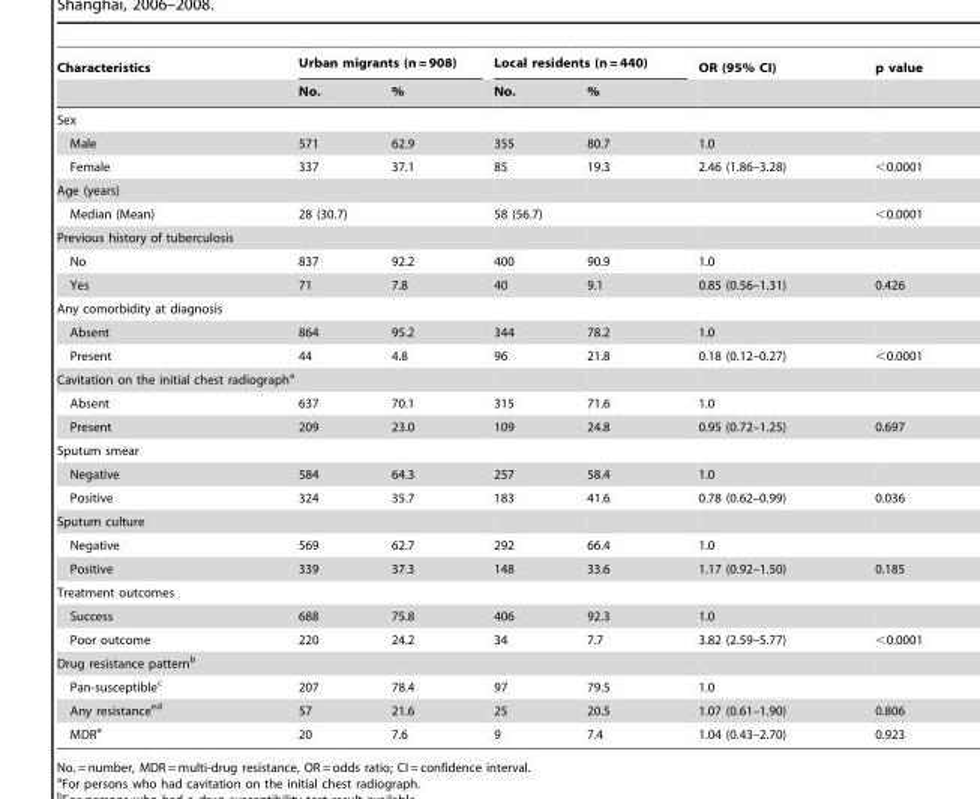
<table><thead><tr><td rowspan="2">Characteristics</td><td colspan="2">Urban migrants (n = 908)</td><td colspan="2">Local residents (n = 440)</td><td rowspan="2">OR (95% CI)</td><td rowspan="2">p value</td></tr><tr><td>No.</td><td>%</td><td>No.</td><td>%</td></tr></thead><tbody><tr><td colspan="7">Sex</td></tr><tr><td>Male</td><td>571</td><td>62.9</td><td>355</td><td>80.7</td><td>1.0</td><td></td></tr><tr><td>Female</td><td>337</td><td>37.1</td><td>85</td><td>19.3</td><td>2.46 (1.86–3.28)</td><td>&lt;0.0001</td></tr><tr><td colspan="7">Age (years)</td></tr><tr><td>Median (Mean)</td><td>28 (30.7)</td><td></td><td>58 (56.7)</td><td></td><td></td><td>&lt;0.0001</td></tr><tr><td colspan="7">Previous history of tuberculosis</td></tr><tr><td>No</td><td>837</td><td>92.2</td><td>400</td><td>90.9</td><td>1.0</td><td></td></tr><tr><td>Yes</td><td>71</td><td>7.8</td><td>40</td><td>9.1</td><td>0.85 (0.56–1.31)</td><td>0.426</td></tr><tr><td colspan="7">Any comorbidity at diagnosis</td></tr><tr><td>Absent</td><td>864</td><td>95.2</td><td>344</td><td>78.2</td><td>1.0</td><td></td></tr><tr><td>Present</td><td>44</td><td>4.8</td><td>96</td><td>21.8</td><td>0.18 (0.12–0.27)</td><td>&lt;0.0001</td></tr><tr><td colspan="7">Cavitation on the initial chest radiograph<sup>a</sup></td></tr><tr><td>Absent</td><td>637</td><td>70.1</td><td>315</td><td>71.6</td><td>1.0</td><td></td></tr><tr><td>Present</td><td>209</td><td>23.0</td><td>109</td><td>24.8</td><td>0.95 (0.72–1.25)</td><td>0.697</td></tr><tr><td colspan="7">Sputum smear</td></tr><tr><td>Negative</td><td>584</td><td>64.3</td><td>257</td><td>58.4</td><td>1.0</td><td></td></tr><tr><td>Positive</td><td>324</td><td>35.7</td><td>183</td><td>41.6</td><td>0.78 (0.62–0.99)</td><td>0.036</td></tr><tr><td colspan="7">Sputum culture</td></tr><tr><td>Negative</td><td>569</td><td>62.7</td><td>292</td><td>66.4</td><td>1.0</td><td></td></tr><tr><td>Positive</td><td>339</td><td>37.3</td><td>148</td><td>33.6</td><td>1.17 (0.92–1.50)</td><td>0.185</td></tr><tr><td colspan="7">Treatment outcomes</td></tr><tr><td>Success</td><td>688</td><td>75.8</td><td>406</td><td>92.3</td><td>1.0</td><td></td></tr><tr><td>Poor outcome</td><td>220</td><td>24.2</td><td>34</td><td>7.7</td><td>3.82 (2.59–5.77)</td><td>&lt;0.0001</td></tr><tr><td colspan="7">Drug resistance pattern<sup>b</sup></td></tr><tr><td>Pan-susceptible<sup>c</sup></td><td>207</td><td>78.4</td><td>97</td><td>79.5</td><td>1.0</td><td></td></tr><tr><td>Any resistance<sup>ed</sup></td><td>57</td><td>21.6</td><td>25</td><td>20.5</td><td>1.07 (0.61–1.90)</td><td>0.806</td></tr><tr><td>MDR<sup>e</sup></td><td>20</td><td>7.6</td><td>9</td><td>7.4</td><td>1.04 (0.43–2.70)</td><td>0.923</td></tr></tbody></table>